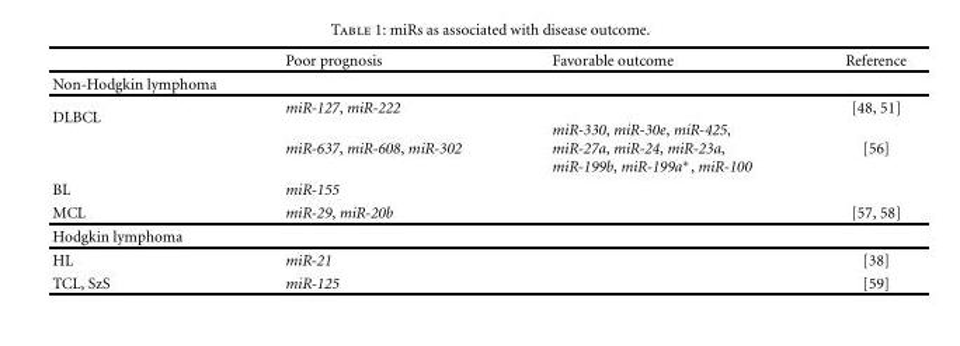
<table><thead><tr><td></td><td>Poor prognosis</td><td>Favorable outcome</td><td>Reference</td></tr></thead><tbody><tr><td colspan="4">Non-Hodgkin lymphoma</td></tr><tr><td rowspan="2">DLBCL</td><td>miR-127, miR-222</td><td></td><td>[48, 51]</td></tr><tr><td>miR-637, miR-608, miR-302</td><td>miR-330, miR-30e, miR-425, miR-27a, miR-24, miR-23a, miR-199b, miR-199a∗, miR-100</td><td>[56]</td></tr><tr><td>BL</td><td>miR-155</td><td></td><td></td></tr><tr><td>MCL</td><td>miR-29, miR-20b</td><td></td><td>[57, 58]</td></tr><tr><td colspan="4">Hodgkin lymphoma</td></tr><tr><td>HL</td><td>miR-21</td><td></td><td>[38]</td></tr><tr><td>TCL, SzS</td><td>miR-125</td><td></td><td>[59]</td></tr></tbody></table>